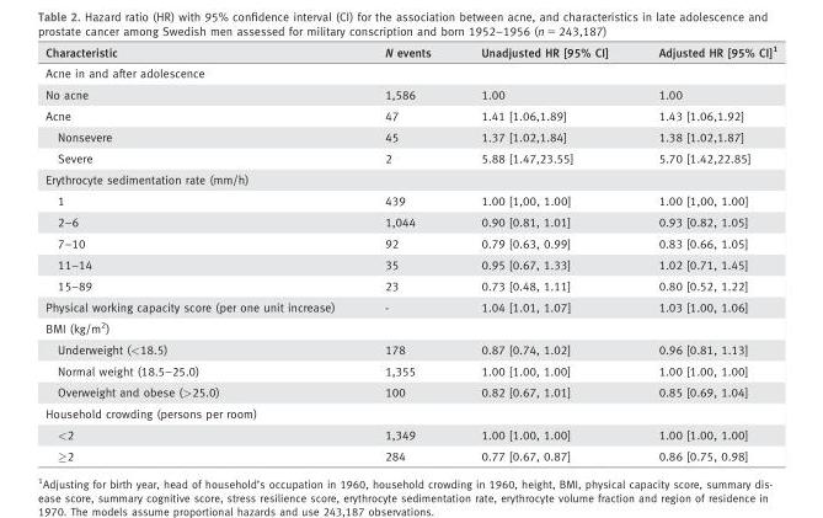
<table><thead><tr><td>Characteristic</td><td>N events</td><td>Unadjusted HR [95% CI]</td><td>Adjusted HR [95% CI]1</td></tr></thead><tbody><tr><td colspan="4">Acne in and after adolescence</td></tr><tr><td>No acne</td><td>1,586</td><td>1.00</td><td>1.00</td></tr><tr><td>Acne</td><td>47</td><td>1.41 [1.06,1.89]</td><td>1.43 [1.06,1.92]</td></tr><tr><td>Nonsevere</td><td>45</td><td>1.37 [1.02,1.84]</td><td>1.38 [1.02,1.87]</td></tr><tr><td>Severe</td><td>2</td><td>5.88 [1.47,23.55]</td><td>5.70 [1.42,22.85]</td></tr><tr><td colspan="4">Erythrocyte sedimentation rate (mm/h)</td></tr><tr><td>1</td><td>439</td><td>1.00 [1,00, 1.00]</td><td>1.00 [1,00, 1.00]</td></tr><tr><td>2–6</td><td>1,044</td><td>0.90 [0.81, 1.01]</td><td>0.93 [0.82, 1.05]</td></tr><tr><td>7–10</td><td>92</td><td>0.79 [0.63, 0.99]</td><td>0.83 [0.66, 1.05]</td></tr><tr><td>11–14</td><td>35</td><td>0.95 [0.67, 1.33]</td><td>1.02 [0.71, 1.45]</td></tr><tr><td>15–89</td><td>23</td><td>0.73 [0.48, 1.11]</td><td>0.80 [0.52, 1.22]</td></tr><tr><td>Physical working capacity score (per one unit increase)</td><td>-</td><td>1.04 [1.01, 1.07]</td><td>1.03 [1.00, 1.06]</td></tr><tr><td colspan="4">BMI (kg/m<sup>2</sup>)</td></tr><tr><td>Underweight (&lt;18.5)</td><td>178</td><td>0.87 [0.74, 1.02]</td><td>0.96 [0.81, 1.13]</td></tr><tr><td>Normal weight (18.5–25.0)</td><td>1,355</td><td>1.00 [1.00, 1.00]</td><td>1.00 [1.00, 1.00]</td></tr><tr><td>Overweight and obese (&gt;25.0)</td><td>100</td><td>0.82 [0.67, 1.01]</td><td>0.85 [0.69, 1.04]</td></tr><tr><td colspan="4">Household crowding (persons per room)</td></tr><tr><td>&lt;2</td><td>1,349</td><td>1.00 [1.00, 1.00]</td><td>1.00 [1.00, 1.00]</td></tr><tr><td>≥2</td><td>284</td><td>0.77 [0.67, 0.87]</td><td>0.86 [0.75, 0.98]</td></tr></tbody></table>